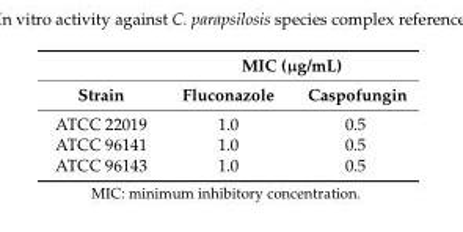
<table><thead><tr><td rowspan="2">Strain</td><td colspan="2">MIC (µg/mL)</td></tr><tr><td>Fluconazole</td><td>Caspofungin</td></tr></thead><tbody><tr><td>ATCC 22019</td><td>1.0</td><td>0.5</td></tr><tr><td>ATCC 96141</td><td>1.0</td><td>0.5</td></tr><tr><td>ATCC 96143</td><td>1.0</td><td>0.5</td></tr></tbody></table>